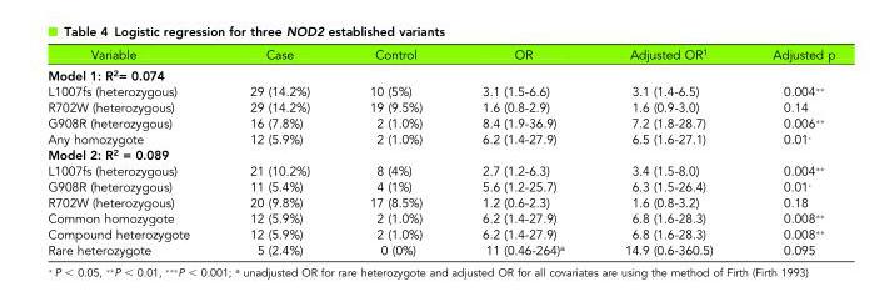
<table><thead><tr><td>Variable</td><td>Case</td><td>Control</td><td>OR</td><td>Adjusted OR<sup>1</sup></td><td>Adjusted p</td></tr></thead><tbody><tr><td colspan="6">Model 1: R<sup>2</sup>= 0.074</td></tr><tr><td>L1007fs (heterozygous)</td><td>29 (14.2%)</td><td>10 (5%)</td><td>3.1 (1.5-6.6)</td><td>3.1 (1.4-6.5)</td><td>0.004**</td></tr><tr><td>R702W (heterozygous)</td><td>29 (14.2%)</td><td>19 (9.5%)</td><td>1.6 (0.8-2.9)</td><td>1.6 (0.9-3.0)</td><td>0.14</td></tr><tr><td>G908R (heterozygous)</td><td>16 (7.8%)</td><td>2 (1.0%)</td><td>8.4 (1.9-36.9)</td><td>7.2 (1.8-28.7)</td><td>0.006**</td></tr><tr><td>Any homozygote</td><td>12 (5.9%)</td><td>2 (1.0%)</td><td>6.2 (1.4-27.9)</td><td>6.5 (1.6-27.1)</td><td>0.01*</td></tr><tr><td colspan="6">Model 2: R<sup>2</sup> = 0.089</td></tr><tr><td>L1007fs (heterozygous)</td><td>21 (10.2%)</td><td>8 (4%)</td><td>2.7 (1.2-6.3)</td><td>3.4 (1.5-8.0)</td><td>0.004**</td></tr><tr><td>G908R (heterozygous)</td><td>11 (5.4%)</td><td>4 (1%)</td><td>5.6 (1.2-25.7)</td><td>6.3 (1.5-26.4)</td><td>0.01*</td></tr><tr><td>R702W (heterozygous)</td><td>20 (9.8%)</td><td>17 (8.5%)</td><td>1.2 (0.6-2.3)</td><td>1.6 (0.8-3.2)</td><td>0.18</td></tr><tr><td>Common homozygote</td><td>12 (5.9%)</td><td>2 (1.0%)</td><td>6.2 (1.4-27.9)</td><td>6.8 (1.6-28.3)</td><td>0.008**</td></tr><tr><td>Compound heterozygote</td><td>12 (5.9%)</td><td>2 (1.0%)</td><td>6.2 (1.4-27.9)</td><td>6.8 (1.6-28.3)</td><td>0.008**</td></tr><tr><td>Rare heterozygote</td><td>5 (2.4%)</td><td>0 (0%)</td><td>11 (0.46-264)<sup>a</sup></td><td>14.9 (0.6-360.5)</td><td>0.095</td></tr></tbody></table>